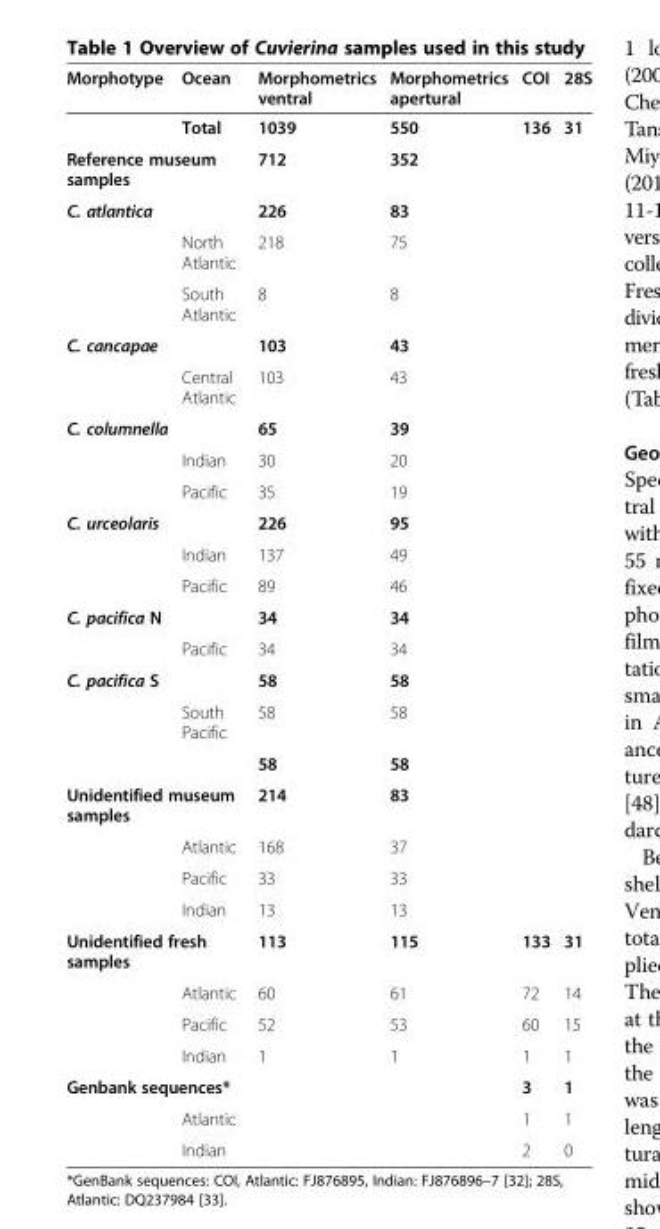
<table><thead><tr><td>Morphotype</td><td>Ocean</td><td>Morphometrics ventral</td><td>Morphometrics apertural</td><td>COI</td><td>28S</td></tr></thead><tbody><tr><td></td><td>Total</td><td>1039</td><td>550</td><td>136</td><td>31</td></tr><tr><td colspan="2">Reference museum samples</td><td>712</td><td>352</td><td></td><td></td></tr><tr><td rowspan="3">C. atlantica</td><td></td><td>226</td><td>83</td><td></td><td></td></tr><tr><td>North Atlantic</td><td>218</td><td>75</td><td></td><td></td></tr><tr><td>South Atlantic</td><td>8</td><td>8</td><td></td><td></td></tr><tr><td rowspan="2">C. cancapae</td><td></td><td>103</td><td>43</td><td></td><td></td></tr><tr><td>Central Atlantic</td><td>103</td><td>43</td><td></td><td></td></tr><tr><td rowspan="3">C. columnella</td><td></td><td>65</td><td>39</td><td></td><td></td></tr><tr><td>Indian</td><td>30</td><td>20</td><td></td><td></td></tr><tr><td>Pacific</td><td>35</td><td>19</td><td></td><td></td></tr><tr><td rowspan="3">C. urceolaris</td><td></td><td>226</td><td>95</td><td></td><td></td></tr><tr><td>Indian</td><td>137</td><td>49</td><td></td><td></td></tr><tr><td>Pacific</td><td>89</td><td>46</td><td></td><td></td></tr><tr><td rowspan="2">C. pacifica N</td><td></td><td>34</td><td>34</td><td></td><td></td></tr><tr><td>Pacific</td><td>34</td><td>34</td><td></td><td></td></tr><tr><td rowspan="3">C. pacifica S</td><td></td><td>58</td><td>58</td><td></td><td></td></tr><tr><td>South Pacific</td><td>58</td><td>58</td><td></td><td></td></tr><tr><td></td><td>58</td><td>58</td><td></td><td></td></tr><tr><td colspan="2">Unidentified museum samples</td><td>214</td><td>83</td><td></td><td></td></tr><tr><td></td><td>Atlantic</td><td>168</td><td>37</td><td></td><td></td></tr><tr><td></td><td>Pacific</td><td>33</td><td>33</td><td></td><td></td></tr><tr><td></td><td>Indian</td><td>13</td><td>13</td><td></td><td></td></tr><tr><td colspan="2">Unidentified fresh samples</td><td>113</td><td>115</td><td>133</td><td>31</td></tr><tr><td></td><td>Atlantic</td><td>60</td><td>61</td><td>72</td><td>14</td></tr><tr><td></td><td>Pacific</td><td>52</td><td>53</td><td>60</td><td>15</td></tr><tr><td></td><td>Indian</td><td>1</td><td>1</td><td>1</td><td>1</td></tr><tr><td colspan="2">Genbank sequences*</td><td></td><td></td><td>3</td><td>1</td></tr><tr><td></td><td>Atlantic</td><td></td><td></td><td>1</td><td>1</td></tr><tr><td></td><td>Indian</td><td></td><td></td><td>2</td><td>0</td></tr></tbody></table>